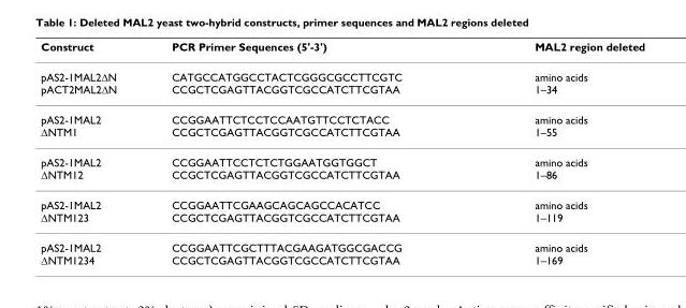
<table><thead><tr><td>Construct</td><td>PCR Primer Sequences (5&#x27;-3&#x27;)</td><td>MAL2 region deleted</td></tr></thead><tbody><tr><td>pAS2-1MAL2ΔN pACT2MAL2ΔN</td><td>CATGCCATGGCCTACTCGGGCGCCTTCGTC CCGCTCGAGTTACGGTCGCCATCTTCGTAA</td><td>amino acids 1–34</td></tr><tr><td>pAS2-1MAL2 ΔNTM1</td><td>CCGGAATTCTCCTCCAATGTTCCTCTACC CCGCTCGAGTTACGGTCGCCATCTTCGTAA</td><td>amino acids 1–55</td></tr><tr><td>pAS2-1MAL2 ΔNTM12</td><td>CCGGAATTCCTCTCTGGAATGGTGGCT CCGCTCGAGTTACGGTCGCCATCTTCGTAA</td><td>amino acids 1–86</td></tr><tr><td>pAS2-1MAL2 ΔNTM123</td><td>CCGGAATTCGAAGCAGCAGCCACATCC CCGCTCGAGTTACGGTCGCCATCTTCGTAA</td><td>amino acids 1–119</td></tr><tr><td>pAS2-1MAL2 ΔNTM1234</td><td>CCGGAATTCGCTTTACGAAGATGGCGACCG CCGCTCGAGTTACGGTCGCCATCTTCGTAA</td><td>amino acids 1–169</td></tr></tbody></table>